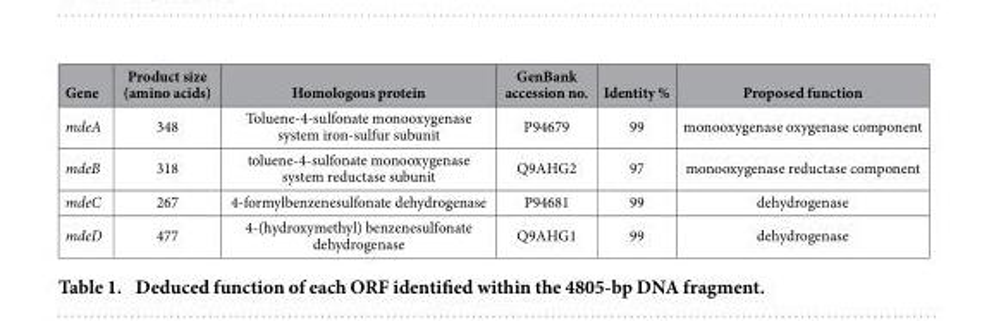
<table><thead><tr><td>Gene</td><td>Product size (amino acids)</td><td>Homologous protein</td><td>GenBank accession no.</td><td>Identity %</td><td>Proposed function</td></tr></thead><tbody><tr><td>mdeA</td><td>348</td><td>Toluene-4-sulfonate monooxygenase system iron-sulfur subunit</td><td>P94679</td><td>99</td><td>monooxygenase oxygenase component</td></tr><tr><td>mdeB</td><td>318</td><td>toluene-4-sulfonate monooxygenase system reductase subunit</td><td>Q9AHG2</td><td>97</td><td>monooxygenase reductase component</td></tr><tr><td>mdeC</td><td>267</td><td>4-formylbenzenesulfonate dehydrogenase</td><td>P94681</td><td>99</td><td>dehydrogenase</td></tr><tr><td>mdeD</td><td>477</td><td>4-(hydroxymethyl) benzenesulfonate dehydrogenase</td><td>Q9AHG1</td><td>99</td><td>dehydrogenase</td></tr></tbody></table>